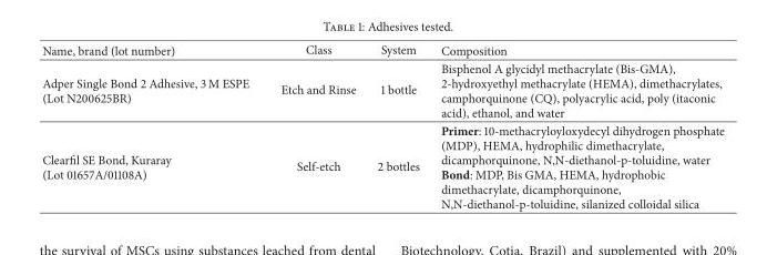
<table><thead><tr><td>Name, brand (lot number)</td><td>Class</td><td>System</td><td>Composition</td></tr></thead><tbody><tr><td>Adper Single Bond 2 Adhesive, 3 M ESPE (Lot N200625BR)</td><td>Etch and Rinse</td><td>1 bottle</td><td>Bisphenol A glycidyl methacrylate (Bis-GMA), 2-hydroxyethyl methacrylate (HEMA), dimethacrylates, camphorquinone (CQ), polyacrylic acid, poly (itaconic acid), ethanol, and water</td></tr><tr><td>Clearfil SE Bond, Kuraray (Lot 01657A/01108A)</td><td>Self-etch</td><td>2 bottles</td><td>Primer: 10-methacryloyloxydecyl dihydrogen phosphate (MDP), HEMA, hydrophilic dimethacrylate, dicamphorquinone, N,N-diethanol-p-toluidine, water Bond: MDP, Bis GMA, HEMA, hydrophobic dimethacrylate, dicamphorquinone, N,N-diethanol-p-toluidine, silanized colloidal silica</td></tr></tbody></table>